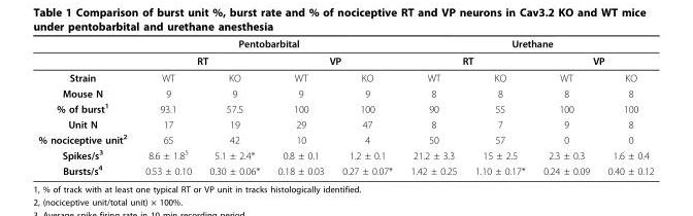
<table><thead><tr><td rowspan="3">Strain</td><td colspan="4">Pentobarbital</td><td colspan="4">Urethane</td></tr><tr><td colspan="2">RT</td><td colspan="2">VP</td><td colspan="2">RT</td><td colspan="2">VP</td></tr><tr><td>WT</td><td>KO</td><td>WT</td><td>KO</td><td>WT</td><td>KO</td><td>WT</td><td>KO</td></tr></thead><tbody><tr><td>Mouse N</td><td>9</td><td>9</td><td>9</td><td>9</td><td>8</td><td>8</td><td>8</td><td>8</td></tr><tr><td>% of burst<sup>1</sup></td><td>93.1</td><td>57.5</td><td>100</td><td>100</td><td>90</td><td>55</td><td>100</td><td>100</td></tr><tr><td>Unit N</td><td>17</td><td>19</td><td>29</td><td>47</td><td>8</td><td>7</td><td>9</td><td>8</td></tr><tr><td>% nociceptive unit<sup>2</sup></td><td>65</td><td>42</td><td>10</td><td>4</td><td>50</td><td>57</td><td>0</td><td>0</td></tr><tr><td>Spikes/s<sup>3</sup></td><td>8.6 ± 1.8<sup>5</sup></td><td>5.1 ± 2.4*</td><td>0.8 ± 0.1</td><td>1.2 ± 0.1</td><td>21.2 ± 3.3</td><td>15 ± 2.5</td><td>2.3 ± 0.3</td><td>1.6 ± 0.4</td></tr><tr><td>Bursts/s<sup>4</sup></td><td>0.53 ± 0.10</td><td>0.30 ± 0.06*</td><td>0.18 ± 0.03</td><td>0.27 ± 0.07*</td><td>1.42 ± 0.25</td><td>1.10 ± 0.17*</td><td>0.24 ± 0.09</td><td>0.40 ± 0.12</td></tr></tbody></table>